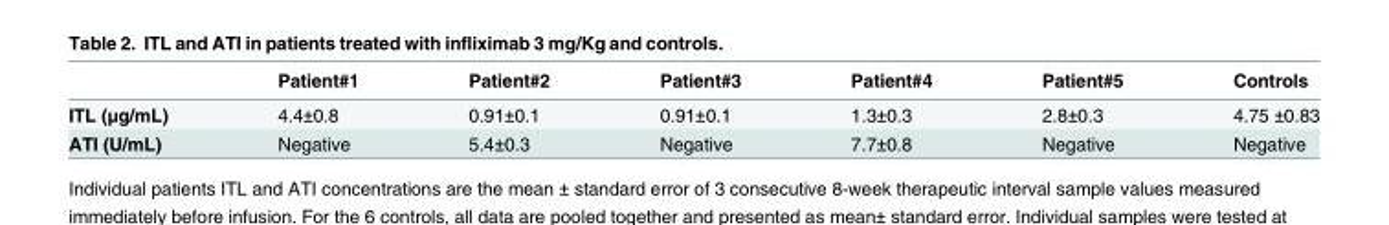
<table><thead><tr><td></td><td>Patient#1</td><td>Patient#2</td><td>Patient#3</td><td>Patient#4</td><td>Patient#5</td><td>Controls</td></tr></thead><tbody><tr><td>ITL (μg/mL)</td><td>4.4±0.8</td><td>0.91±0.1</td><td>0.91±0.1</td><td>1.3±0.3</td><td>2.8±0.3</td><td>4.75 ±0.83</td></tr><tr><td>ATI (U/mL)</td><td>Negative</td><td>5.4±0.3</td><td>Negative</td><td>7.7±0.8</td><td>Negative</td><td>Negative</td></tr></tbody></table>